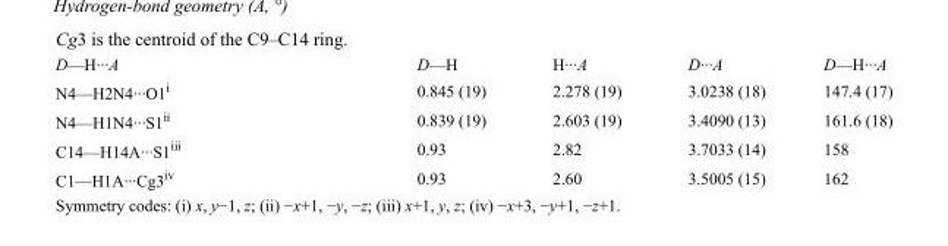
<table><tbody><tr><td>D—H···A</td><td>D—H</td><td>H···A</td><td>D···A</td><td>D—H···A</td></tr><tr><td>N4—H2N4···O1<sup>i</sup></td><td>0.845 (19)</td><td>2.278 (19)</td><td>3.0238 (18)</td><td>147.4 (17)</td></tr><tr><td>N4—H1N4···S1<sup>ii</sup></td><td>0.839 (19)</td><td>2.603 (19)</td><td>3.4090 (13)</td><td>161.6 (18)</td></tr><tr><td>C14—H14A···S1<sup>iii</sup></td><td>0.93</td><td>2.82</td><td>3.7033 (14)</td><td>158</td></tr><tr><td>C1—H1A···Cg3<sup>iv</sup></td><td>0.93</td><td>2.60</td><td>3.5005 (15)</td><td>162</td></tr></tbody></table>